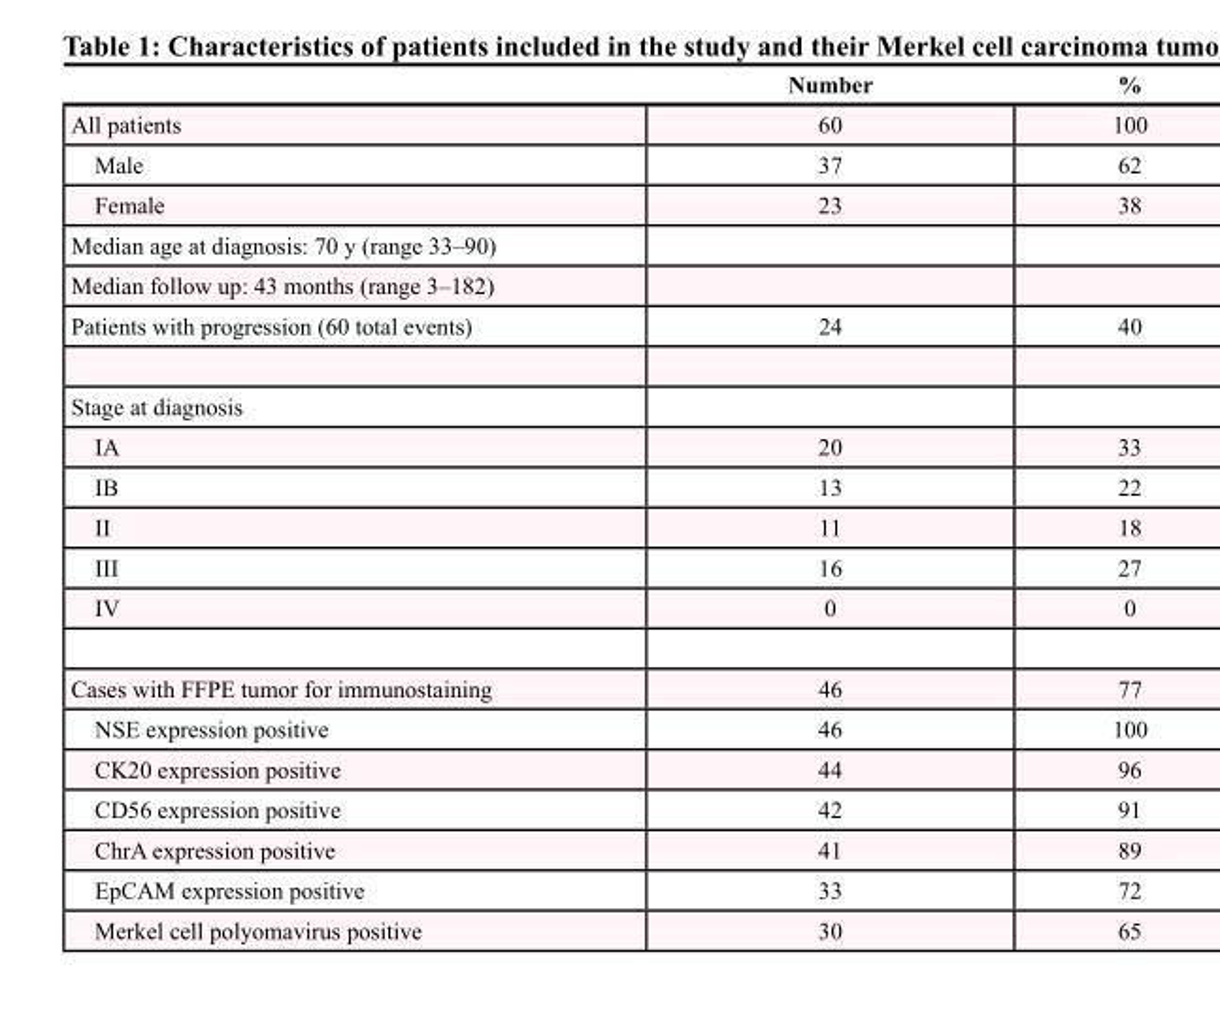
<table><thead><tr><td></td><td>Number</td><td>%</td></tr></thead><tbody><tr><td>All patients</td><td>60</td><td>100</td></tr><tr><td>Male</td><td>37</td><td>62</td></tr><tr><td>Female</td><td>23</td><td>38</td></tr><tr><td colspan="3">Median age at diagnosis: 70 y (range 33–90)</td></tr><tr><td colspan="3">Median follow up: 43 months (range 3–182)</td></tr><tr><td>Patients with progression (60 total events)</td><td>24</td><td>40</td></tr><tr><td colspan="3">Stage at diagnosis</td></tr><tr><td>IA</td><td>20</td><td>33</td></tr><tr><td>IB</td><td>13</td><td>22</td></tr><tr><td>II</td><td>11</td><td>18</td></tr><tr><td>III</td><td>16</td><td>27</td></tr><tr><td>IV</td><td>0</td><td>0</td></tr><tr><td>Cases with FFPE tumor for immunostaining</td><td>46</td><td>77</td></tr><tr><td>NSE expression positive</td><td>46</td><td>100</td></tr><tr><td>CK20 expression positive</td><td>44</td><td>96</td></tr><tr><td>CD56 expression positive</td><td>42</td><td>91</td></tr><tr><td>ChrA expression positive</td><td>41</td><td>89</td></tr><tr><td>EpCAM expression positive</td><td>33</td><td>72</td></tr><tr><td>Merkel cell polyomavirus positive</td><td>30</td><td>65</td></tr></tbody></table>